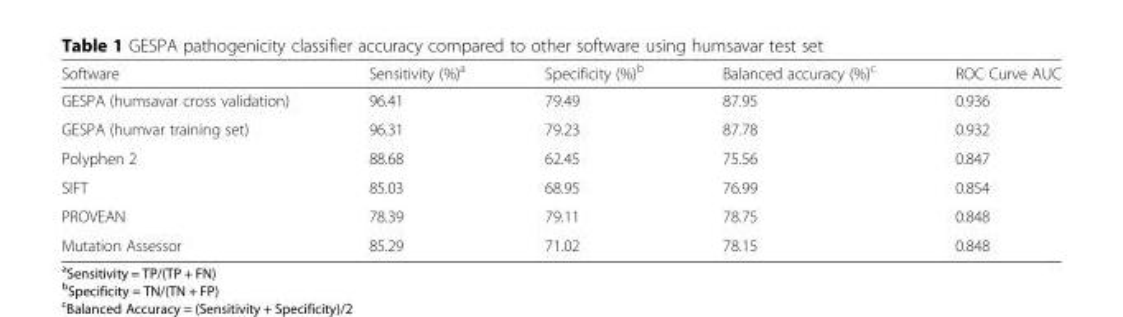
<table><thead><tr><td>Software</td><td>Sensitivity (%)<sup>a</sup></td><td>Specificity (%)<sup>b</sup></td><td>Balanced accuracy (%)<sup>c</sup></td><td>ROC Curve AUC</td></tr></thead><tbody><tr><td>GESPA (humsavar cross validation)</td><td>96.41</td><td>79.49</td><td>87.95</td><td>0.936</td></tr><tr><td>GESPA (humvar training set)</td><td>96.31</td><td>79.23</td><td>87.78</td><td>0.932</td></tr><tr><td>Polyphen 2</td><td>88.68</td><td>62.45</td><td>75.56</td><td>0.847</td></tr><tr><td>SIFT</td><td>85.03</td><td>68.95</td><td>76.99</td><td>0.854</td></tr><tr><td>PROVEAN</td><td>78.39</td><td>79.11</td><td>78.75</td><td>0.848</td></tr><tr><td>Mutation Assessor</td><td>85.29</td><td>71.02</td><td>78.15</td><td>0.848</td></tr></tbody></table>